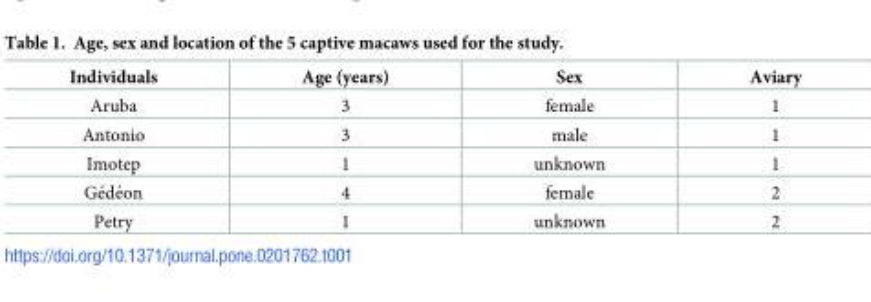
<table><thead><tr><td>Individuals</td><td>Age (years)</td><td>Sex</td><td>Aviary</td></tr></thead><tbody><tr><td>Aruba</td><td>3</td><td>female</td><td>1</td></tr><tr><td>Antonio</td><td>3</td><td>male</td><td>1</td></tr><tr><td>Imotep</td><td>1</td><td>unknown</td><td>1</td></tr><tr><td>Ge´de´on</td><td>4</td><td>female</td><td>2</td></tr><tr><td>Petry</td><td>1</td><td>unknown</td><td>2</td></tr></tbody></table>